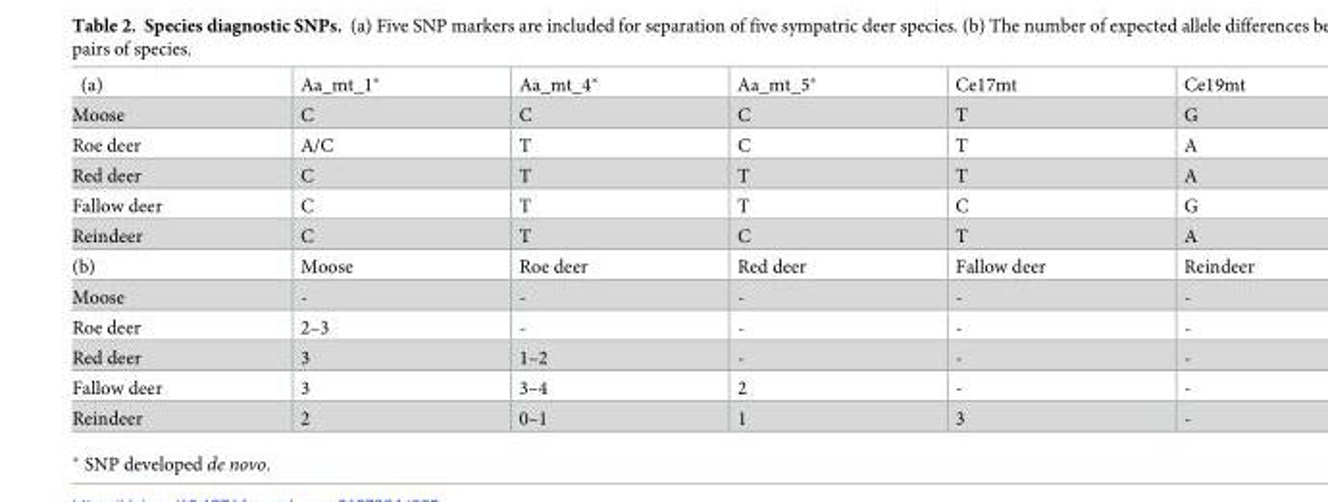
<table><tbody><tr><td>(a)</td><td>Aa_mt_1*</td><td>Aa_mt_4*</td><td>Aa_mt_5*</td><td>Ce17mt</td><td>Ce19mt</td></tr><tr><td>Moose</td><td>C</td><td>C</td><td>C</td><td>T</td><td>G</td></tr><tr><td>Roe deer</td><td>A/C</td><td>T</td><td>C</td><td>T</td><td>A</td></tr><tr><td>Red deer</td><td>C</td><td>T</td><td>T</td><td>T</td><td>A</td></tr><tr><td>Fallow deer</td><td>C</td><td>T</td><td>T</td><td>C</td><td>G</td></tr><tr><td>Reindeer</td><td>C</td><td>T</td><td>C</td><td>T</td><td>A</td></tr><tr><td>(b)</td><td>Moose</td><td>Roe deer</td><td>Red deer</td><td>Fallow deer</td><td>Reindeer</td></tr><tr><td>Moose</td><td>-</td><td>-</td><td>-</td><td>-</td><td>-</td></tr><tr><td>Roe deer</td><td>2–3</td><td>-</td><td>-</td><td>-</td><td>-</td></tr><tr><td>Red deer</td><td>3</td><td>1–2</td><td>-</td><td>-</td><td>-</td></tr><tr><td>Fallow deer</td><td>3</td><td>3–4</td><td>2</td><td>-</td><td>-</td></tr><tr><td>Reindeer</td><td>2</td><td>0–1</td><td>1</td><td>3</td><td>-</td></tr></tbody></table>